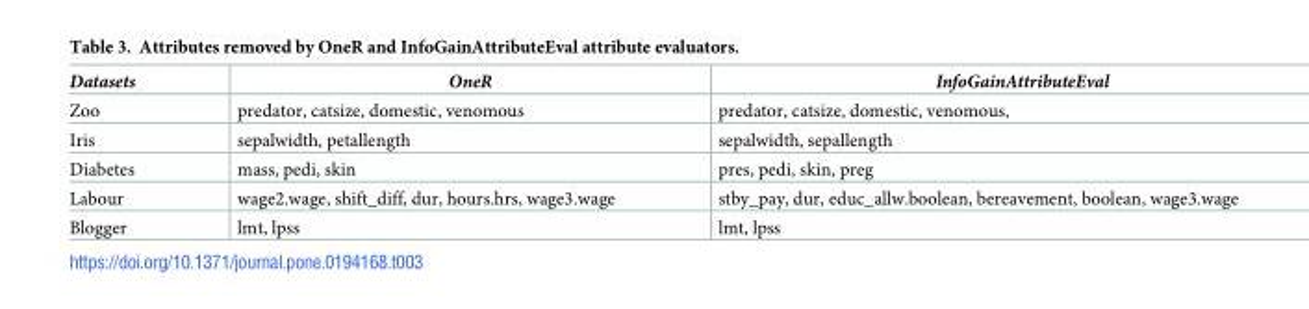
<table><thead><tr><td>Datasets</td><td>OneR</td><td>InfoGainAttributeEval</td></tr></thead><tbody><tr><td>Zoo</td><td>predator, catsize, domestic, venomous</td><td>predator, catsize, domestic, venomous,</td></tr><tr><td>Iris</td><td>sepalwidth, petallength</td><td>sepalwidth, sepallength</td></tr><tr><td>Diabetes</td><td>mass, pedi, skin</td><td>pres, pedi, skin, preg</td></tr><tr><td>Labour</td><td>wage2.wage, shift_diff, dur, hours.hrs, wage3.wage</td><td>stby_pay, dur, educ_allw.boolean, bereavement, boolean, wage3.wage</td></tr><tr><td>Blogger</td><td>lmt, lpss</td><td>lmt, lpss</td></tr></tbody></table>